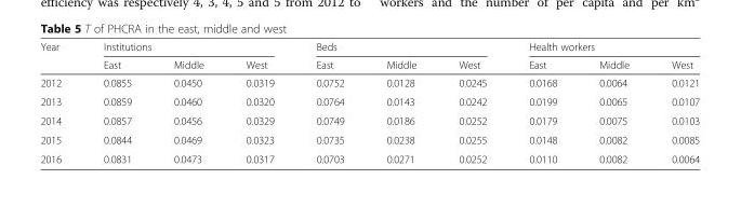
<table><thead><tr><td rowspan="2">Year</td><td colspan="3">Institutions</td><td colspan="3">Beds</td><td colspan="3">Health workers</td></tr><tr><td>East</td><td>Middle</td><td>West</td><td>East</td><td>Middle</td><td>West</td><td>East</td><td>Middle</td><td>West</td></tr></thead><tbody><tr><td>2012</td><td>0.0855</td><td>0.0450</td><td>0.0319</td><td>0.0752</td><td>0.0128</td><td>0.0245</td><td>0.0168</td><td>0.0064</td><td>0.0121</td></tr><tr><td>2013</td><td>0.0859</td><td>0.0460</td><td>0.0320</td><td>0.0764</td><td>0.0143</td><td>0.0242</td><td>0.0199</td><td>0.0065</td><td>0.0107</td></tr><tr><td>2014</td><td>0.0857</td><td>0.0456</td><td>0.0329</td><td>0.0749</td><td>0.0186</td><td>0.0252</td><td>0.0179</td><td>0.0075</td><td>0.0103</td></tr><tr><td>2015</td><td>0.0844</td><td>0.0469</td><td>0.0323</td><td>0.0735</td><td>0.0238</td><td>0.0255</td><td>0.0148</td><td>0.0082</td><td>0.0085</td></tr><tr><td>2016</td><td>0.0831</td><td>0.0473</td><td>0.0317</td><td>0.0703</td><td>0.0271</td><td>0.0252</td><td>0.0110</td><td>0.0082</td><td>0.0064</td></tr></tbody></table>